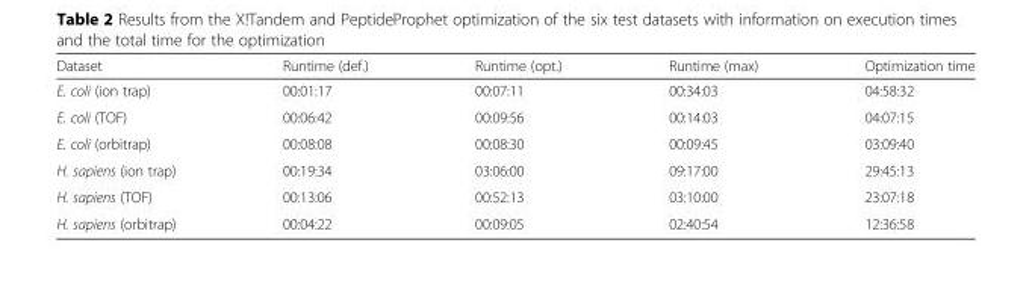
<table><thead><tr><td>Dataset</td><td>Runtime (def.)</td><td>Runtime (opt.)</td><td>Runtime (max)</td><td>Optimization time</td></tr></thead><tbody><tr><td>E. coli (ion trap)</td><td>00:01:17</td><td>00:07:11</td><td>00:34:03</td><td>04:58:32</td></tr><tr><td>E. coli (TOF)</td><td>00:06:42</td><td>00:09:56</td><td>00:14:03</td><td>04:07:15</td></tr><tr><td>E. coli (orbitrap)</td><td>00:08:08</td><td>00:08:30</td><td>00:09:45</td><td>03:09:40</td></tr><tr><td>H. sapiens (ion trap)</td><td>00:19:34</td><td>03:06:00</td><td>09:17:00</td><td>29:45:13</td></tr><tr><td>H. sapiens (TOF)</td><td>00:13:06</td><td>00:52:13</td><td>03:10:00</td><td>23:07:18</td></tr><tr><td>H. sapiens (orbitrap)</td><td>00:04:22</td><td>00:09:05</td><td>02:40:54</td><td>12:36:58</td></tr></tbody></table>